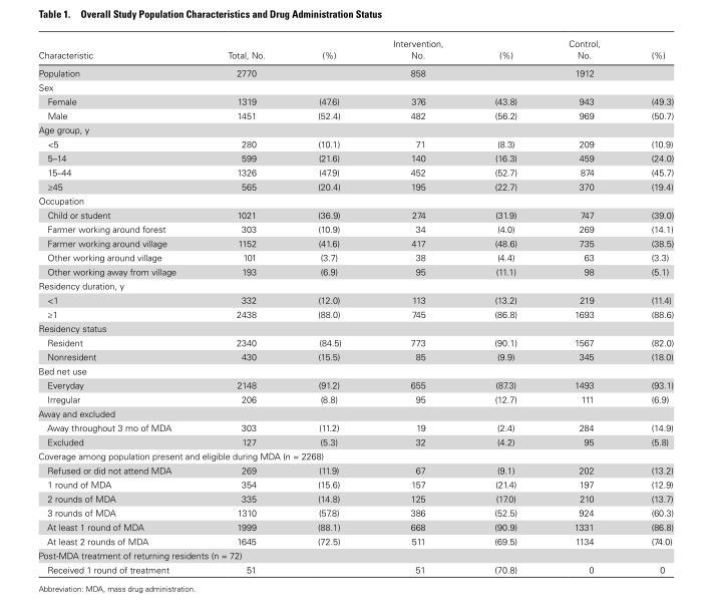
<table><thead><tr><td>Characteristic</td><td>Total, No.</td><td>(%)</td><td>Intervention, No.</td><td>(%)</td><td>Control, No.</td><td>(%)</td></tr></thead><tbody><tr><td>Population</td><td>2770</td><td></td><td>858</td><td></td><td>1912</td><td></td></tr><tr><td colspan="7">Sex</td></tr><tr><td>Female</td><td>1319</td><td>(47.6)</td><td>376</td><td>(43.8)</td><td>943</td><td>(49.3)</td></tr><tr><td>Male</td><td>1451</td><td>(52.4)</td><td>482</td><td>(56.2)</td><td>969</td><td>(50.7)</td></tr><tr><td colspan="7">Age group, y</td></tr><tr><td>&lt;5</td><td>280</td><td>(10.1)</td><td>71</td><td>(8.3)</td><td>209</td><td>(10.9)</td></tr><tr><td>5–14</td><td>599</td><td>(21.6)</td><td>140</td><td>(16.3)</td><td>459</td><td>(24.0)</td></tr><tr><td>15–44</td><td>1326</td><td>(47.9)</td><td>452</td><td>(52.7)</td><td>874</td><td>(45.7)</td></tr><tr><td>≥45</td><td>565</td><td>(20.4)</td><td>195</td><td>(22.7)</td><td>370</td><td>(19.4)</td></tr><tr><td colspan="7">Occupation</td></tr><tr><td>Child or student</td><td>1021</td><td>(36.9)</td><td>274</td><td>(31.9)</td><td>747</td><td>(39.0)</td></tr><tr><td>Farmer working around forest</td><td>303</td><td>(10.9)</td><td>34</td><td>(4.0)</td><td>269</td><td>(14.1)</td></tr><tr><td>Farmer working around village</td><td>1152</td><td>(41.6)</td><td>417</td><td>(48.6)</td><td>735</td><td>(38.5)</td></tr><tr><td>Other working around village</td><td>101</td><td>(3.7)</td><td>38</td><td>(4.4)</td><td>63</td><td>(3.3)</td></tr><tr><td>Other working away from village</td><td>193</td><td>(6.9)</td><td>95</td><td>(11.1)</td><td>98</td><td>(5.1)</td></tr><tr><td colspan="7">Residency duration, y</td></tr><tr><td>&lt;1</td><td>332</td><td>(12.0)</td><td>113</td><td>(13.2)</td><td>219</td><td>(11.4)</td></tr><tr><td>≥1</td><td>2438</td><td>(88.0)</td><td>745</td><td>(86.8)</td><td>1693</td><td>(88.6)</td></tr><tr><td colspan="7">Residency status</td></tr><tr><td>Resident</td><td>2340</td><td>(84.5)</td><td>773</td><td>(90.1)</td><td>1567</td><td>(82.0)</td></tr><tr><td>Nonresident</td><td>430</td><td>(15.5)</td><td>85</td><td>(9.9)</td><td>345</td><td>(18.0)</td></tr><tr><td colspan="7">Bed net use</td></tr><tr><td>Everyday</td><td>2148</td><td>(91.2)</td><td>655</td><td>(87.3)</td><td>1493</td><td>(93.1)</td></tr><tr><td>Irregular</td><td>206</td><td>(8.8)</td><td>95</td><td>(12.7)</td><td>111</td><td>(6.9)</td></tr><tr><td colspan="7">Away and excluded</td></tr><tr><td>Away throughout 3 mo of MDA</td><td>303</td><td>(11.2)</td><td>19</td><td>(2.4)</td><td>284</td><td>(14.9)</td></tr><tr><td>Excluded</td><td>127</td><td>(5.3)</td><td>32</td><td>(4.2)</td><td>95</td><td>(5.8)</td></tr><tr><td colspan="7">Coverage among population present and eligible during MDA (n = 2268)</td></tr><tr><td>Refused or did not attend MDA</td><td>269</td><td>(11.9)</td><td>67</td><td>(9.1)</td><td>202</td><td>(13.2)</td></tr><tr><td>1 round of MDA</td><td>354</td><td>(15.6)</td><td>157</td><td>(21.4)</td><td>197</td><td>(12.9)</td></tr><tr><td>2 rounds of MDA</td><td>335</td><td>(14.8)</td><td>125</td><td>(17.0)</td><td>210</td><td>(13.7)</td></tr><tr><td>3 rounds of MDA</td><td>1310</td><td>(57.8)</td><td>386</td><td>(52.5)</td><td>924</td><td>(60.3)</td></tr><tr><td>At least 1 round of MDA</td><td>1999</td><td>(88.1)</td><td>668</td><td>(90.9)</td><td>1331</td><td>(86.8)</td></tr><tr><td>At least 2 rounds of MDA</td><td>1645</td><td>(72.5)</td><td>511</td><td>(69.5)</td><td>1134</td><td>(74.0)</td></tr><tr><td colspan="7">Post-MDA treatment of returning residents (n = 72)</td></tr><tr><td>Received 1 round of treatment</td><td>51</td><td></td><td>51</td><td>(70.8)</td><td>0</td><td>0</td></tr></tbody></table>